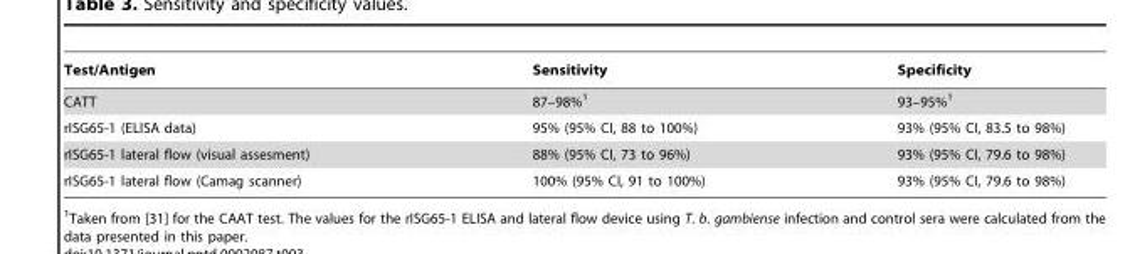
<table><thead><tr><td>Test/Antigen</td><td>Sensitivity</td><td>Specificity</td></tr></thead><tbody><tr><td>CATT</td><td>87–98%<sup>1</sup></td><td>93–95%<sup>1</sup></td></tr><tr><td>rISG65-1 (ELISA data)</td><td>95% (95% CI, 88 to 100%)</td><td>93% (95% CI, 83.5 to 98%)</td></tr><tr><td>rISG65-1 lateral flow (visual assesment)</td><td>88% (95% CI, 73 to 96%)</td><td>93% (95% CI, 79.6 to 98%)</td></tr><tr><td>rISG65-1 lateral flow (Camag scanner)</td><td>100% (95% CI, 91 to 100%)</td><td>93% (95% CI, 79.6 to 98%)</td></tr></tbody></table>